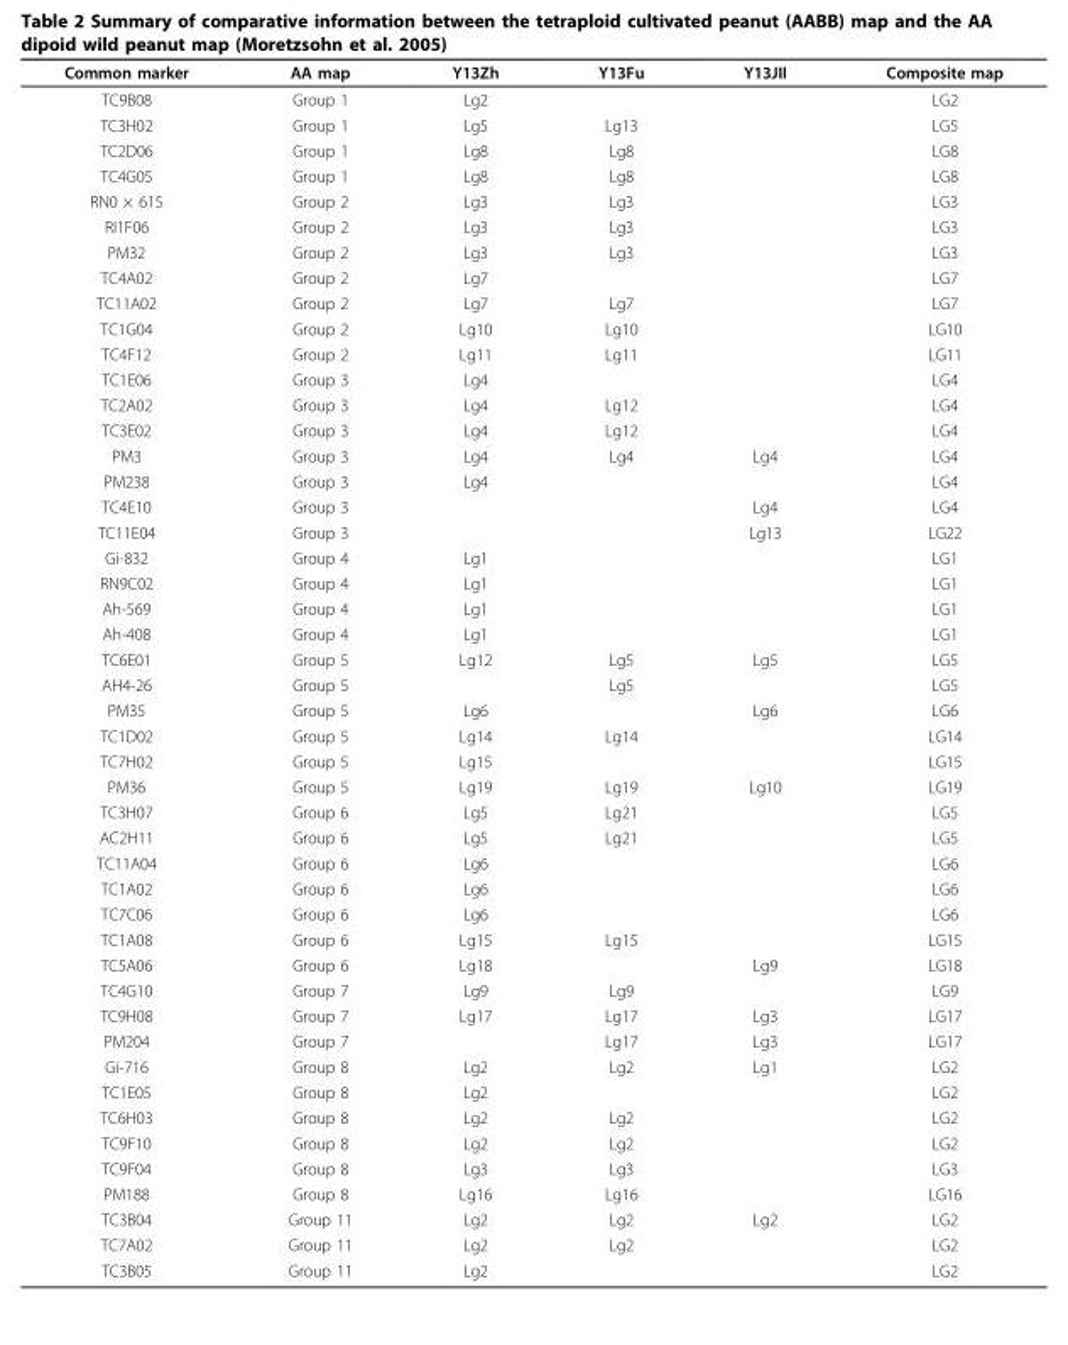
<table><thead><tr><td>Common marker</td><td>AA map</td><td>Y13Zh</td><td>Y13Fu</td><td>Y13JII</td><td>Composite map</td></tr></thead><tbody><tr><td>TC9B08</td><td>Group 1</td><td>Lg2</td><td></td><td></td><td>LG2</td></tr><tr><td>TC3H02</td><td>Group 1</td><td>Lg5</td><td>Lg13</td><td></td><td>LG5</td></tr><tr><td>TC2D06</td><td>Group 1</td><td>Lg8</td><td>Lg8</td><td></td><td>LG8</td></tr><tr><td>TC4G05</td><td>Group 1</td><td>Lg8</td><td>Lg8</td><td></td><td>LG8</td></tr><tr><td>RN0 × 615</td><td>Group 2</td><td>Lg3</td><td>Lg3</td><td></td><td>LG3</td></tr><tr><td>RI1F06</td><td>Group 2</td><td>Lg3</td><td>Lg3</td><td></td><td>LG3</td></tr><tr><td>PM32</td><td>Group 2</td><td>Lg3</td><td>Lg3</td><td></td><td>LG3</td></tr><tr><td>TC4A02</td><td>Group 2</td><td>Lg7</td><td></td><td></td><td>LG7</td></tr><tr><td>TC11A02</td><td>Group 2</td><td>Lg7</td><td>Lg7</td><td></td><td>LG7</td></tr><tr><td>TC1G04</td><td>Group 2</td><td>Lg10</td><td>Lg10</td><td></td><td>LG10</td></tr><tr><td>TC4F12</td><td>Group 2</td><td>Lg11</td><td>Lg11</td><td></td><td>LG11</td></tr><tr><td>TC1E06</td><td>Group 3</td><td>Lg4</td><td></td><td></td><td>LG4</td></tr><tr><td>TC2A02</td><td>Group 3</td><td>Lg4</td><td>Lg12</td><td></td><td>LG4</td></tr><tr><td>TC3E02</td><td>Group 3</td><td>Lg4</td><td>Lg12</td><td></td><td>LG4</td></tr><tr><td>PM3</td><td>Group 3</td><td>Lg4</td><td>Lg4</td><td>Lg4</td><td>LG4</td></tr><tr><td>PM238</td><td>Group 3</td><td>Lg4</td><td></td><td></td><td>LG4</td></tr><tr><td>TC4E10</td><td>Group 3</td><td></td><td></td><td>Lg4</td><td>LG4</td></tr><tr><td>TC11E04</td><td>Group 3</td><td></td><td></td><td>Lg13</td><td>LG22</td></tr><tr><td>Gi-832</td><td>Group 4</td><td>Lg1</td><td></td><td></td><td>LG1</td></tr><tr><td>RN9C02</td><td>Group 4</td><td>Lg1</td><td></td><td></td><td>LG1</td></tr><tr><td>Ah-569</td><td>Group 4</td><td>Lg1</td><td></td><td></td><td>LG1</td></tr><tr><td>Ah-408</td><td>Group 4</td><td>Lg1</td><td></td><td></td><td>LG1</td></tr><tr><td>TC6E01</td><td>Group 5</td><td>Lg12</td><td>Lg5</td><td>Lg5</td><td>LG5</td></tr><tr><td>AH4-26</td><td>Group 5</td><td></td><td>Lg5</td><td></td><td>LG5</td></tr><tr><td>PM35</td><td>Group 5</td><td>Lg6</td><td></td><td>Lg6</td><td>LG6</td></tr><tr><td>TC1D02</td><td>Group 5</td><td>Lg14</td><td>Lg14</td><td></td><td>LG14</td></tr><tr><td>TC7H02</td><td>Group 5</td><td>Lg15</td><td></td><td></td><td>LG15</td></tr><tr><td>PM36</td><td>Group 5</td><td>Lg19</td><td>Lg19</td><td>Lg10</td><td>LG19</td></tr><tr><td>TC3H07</td><td>Group 6</td><td>Lg5</td><td>Lg21</td><td></td><td>LG5</td></tr><tr><td>AC2H11</td><td>Group 6</td><td>Lg5</td><td>Lg21</td><td></td><td>LG5</td></tr><tr><td>TC11A04</td><td>Group 6</td><td>Lg6</td><td></td><td></td><td>LG6</td></tr><tr><td>TC1A02</td><td>Group 6</td><td>Lg6</td><td></td><td></td><td>LG6</td></tr><tr><td>TC7C06</td><td>Group 6</td><td>Lg6</td><td></td><td></td><td>LG6</td></tr><tr><td>TC1A08</td><td>Group 6</td><td>Lg15</td><td>Lg15</td><td></td><td>LG15</td></tr><tr><td>TC5A06</td><td>Group 6</td><td>Lg18</td><td></td><td>Lg9</td><td>LG18</td></tr><tr><td>TC4G10</td><td>Group 7</td><td>Lg9</td><td>Lg9</td><td></td><td>LG9</td></tr><tr><td>TC9H08</td><td>Group 7</td><td>Lg17</td><td>Lg17</td><td>Lg3</td><td>LG17</td></tr><tr><td>PM204</td><td>Group 7</td><td></td><td>Lg17</td><td>Lg3</td><td>LG17</td></tr><tr><td>Gi-716</td><td>Group 8</td><td>Lg2</td><td>Lg2</td><td>Lg1</td><td>LG2</td></tr><tr><td>TC1E05</td><td>Group 8</td><td>Lg2</td><td></td><td></td><td>LG2</td></tr><tr><td>TC6H03</td><td>Group 8</td><td>Lg2</td><td>Lg2</td><td></td><td>LG2</td></tr><tr><td>TC9F10</td><td>Group 8</td><td>Lg2</td><td>Lg2</td><td></td><td>LG2</td></tr><tr><td>TC9F04</td><td>Group 8</td><td>Lg3</td><td>Lg3</td><td></td><td>LG3</td></tr><tr><td>PM188</td><td>Group 8</td><td>Lg16</td><td>Lg16</td><td></td><td>LG16</td></tr><tr><td>TC3B04</td><td>Group 11</td><td>Lg2</td><td>Lg2</td><td>Lg2</td><td>LG2</td></tr><tr><td>TC7A02</td><td>Group 11</td><td>Lg2</td><td>Lg2</td><td></td><td>LG2</td></tr><tr><td>TC3B05</td><td>Group 11</td><td>Lg2</td><td></td><td></td><td>LG2</td></tr></tbody></table>